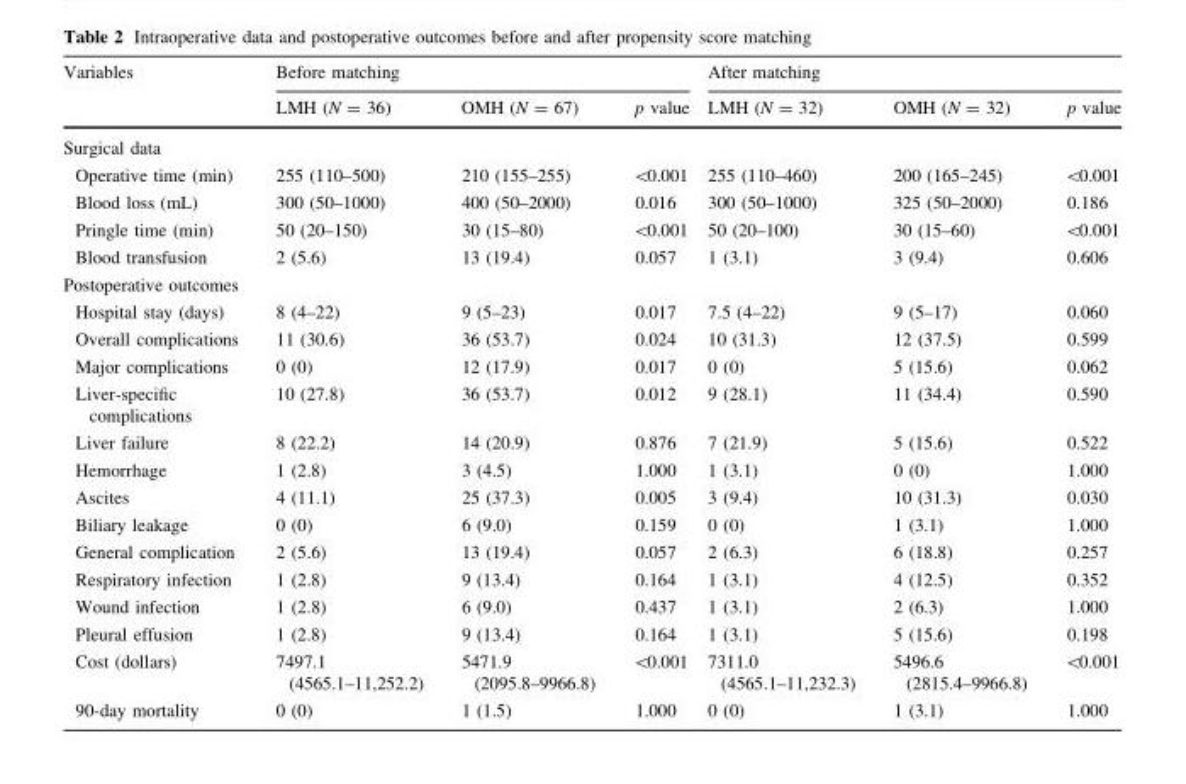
<table><thead><tr><td rowspan="2">Variables</td><td colspan="3">Before matching</td><td colspan="3">After matching</td></tr><tr><td>LMH (N = 36)</td><td>OMH (N = 67)</td><td>p value</td><td>LMH (N = 32)</td><td>OMH (N = 32)</td><td>p value</td></tr></thead><tbody><tr><td colspan="7">Surgical data</td></tr><tr><td>Operative time (min)</td><td>255 (110–500)</td><td>210 (155–255)</td><td>&lt;0.001</td><td>255 (110–460)</td><td>200 (165–245)</td><td>&lt;0.001</td></tr><tr><td>Blood loss (mL)</td><td>300 (50–1000)</td><td>400 (50–2000)</td><td>0.016</td><td>300 (50–1000)</td><td>325 (50–2000)</td><td>0.186</td></tr><tr><td>Pringle time (min)</td><td>50 (20–150)</td><td>30 (15–80)</td><td>&lt;0.001</td><td>50 (20–100)</td><td>30 (15–60)</td><td>&lt;0.001</td></tr><tr><td>Blood transfusion</td><td>2 (5.6)</td><td>13 (19.4)</td><td>0.057</td><td>1 (3.1)</td><td>3 (9.4)</td><td>0.606</td></tr><tr><td colspan="7">Postoperative outcomes</td></tr><tr><td>Hospital stay (days)</td><td>8 (4–22)</td><td>9 (5–23)</td><td>0.017</td><td>7.5 (4–22)</td><td>9 (5–17)</td><td>0.060</td></tr><tr><td>Overall complications</td><td>11 (30.6)</td><td>36 (53.7)</td><td>0.024</td><td>10 (31.3)</td><td>12 (37.5)</td><td>0.599</td></tr><tr><td>Major complications</td><td>0 (0)</td><td>12 (17.9)</td><td>0.017</td><td>0 (0)</td><td>5 (15.6)</td><td>0.062</td></tr><tr><td>Liver-specific complications</td><td>10 (27.8)</td><td>36 (53.7)</td><td>0.012</td><td>9 (28.1)</td><td>11 (34.4)</td><td>0.590</td></tr><tr><td>Liver failure</td><td>8 (22.2)</td><td>14 (20.9)</td><td>0.876</td><td>7 (21.9)</td><td>5 (15.6)</td><td>0.522</td></tr><tr><td>Hemorrhage</td><td>1 (2.8)</td><td>3 (4.5)</td><td>1.000</td><td>1 (3.1)</td><td>0 (0)</td><td>1.000</td></tr><tr><td>Ascites</td><td>4 (11.1)</td><td>25 (37.3)</td><td>0.005</td><td>3 (9.4)</td><td>10 (31.3)</td><td>0.030</td></tr><tr><td>Biliary leakage</td><td>0 (0)</td><td>6 (9.0)</td><td>0.159</td><td>0 (0)</td><td>1 (3.1)</td><td>1.000</td></tr><tr><td>General complication</td><td>2 (5.6)</td><td>13 (19.4)</td><td>0.057</td><td>2 (6.3)</td><td>6 (18.8)</td><td>0.257</td></tr><tr><td>Respiratory infection</td><td>1 (2.8)</td><td>9 (13.4)</td><td>0.164</td><td>1 (3.1)</td><td>4 (12.5)</td><td>0.352</td></tr><tr><td>Wound infection</td><td>1 (2.8)</td><td>6 (9.0)</td><td>0.437</td><td>1 (3.1)</td><td>2 (6.3)</td><td>1.000</td></tr><tr><td>Pleural effusion</td><td>1 (2.8)</td><td>9 (13.4)</td><td>0.164</td><td>1 (3.1)</td><td>5 (15.6)</td><td>0.198</td></tr><tr><td>Cost (dollars)</td><td>7497.1 (4565.1–11,252.2)</td><td>5471.9 (2095.8–9966.8)</td><td>&lt;0.001</td><td>7311.0 (4565.1–11,232.3)</td><td>5496.6 (2815.4–9966.8)</td><td>&lt;0.001</td></tr><tr><td>90-day mortality</td><td>0 (0)</td><td>1 (1.5)</td><td>1.000</td><td>0 (0)</td><td>1 (3.1)</td><td>1.000</td></tr></tbody></table>